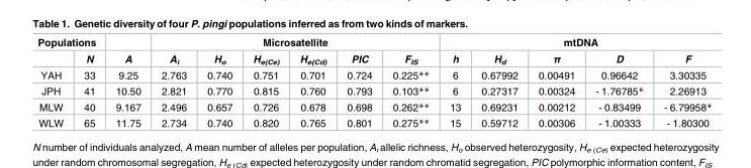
<table><thead><tr><td colspan="2">Populations</td><td rowspan="2">A</td><td colspan="6">Microsatellite</td><td colspan="5">mtDNA</td></tr><tr><td></td><td>N</td><td>A<sub>i</sub></td><td>H<sub>o</sub></td><td>H<sub>e(Ce)</sub></td><td>H<sub>e(Cd)</sub></td><td>PIC</td><td>F<sub>IS</sub></td><td>h</td><td>H<sub>d</sub></td><td>π</td><td>D</td><td>F</td></tr></thead><tbody><tr><td>YAH</td><td>33</td><td>9.25</td><td>2.763</td><td>0.740</td><td>0.751</td><td>0.701</td><td>0.724</td><td>0.225**</td><td>6</td><td>0.67992</td><td>0.00491</td><td>0.96642</td><td>3.30335</td></tr><tr><td>JPH</td><td>41</td><td>10.50</td><td>2.821</td><td>0.770</td><td>0.815</td><td>0.760</td><td>0.793</td><td>0.103**</td><td>6</td><td>0.27317</td><td>0.00324</td><td>- 1.76785*</td><td>2.26913</td></tr><tr><td>MLW</td><td>40</td><td>9.167</td><td>2.496</td><td>0.657</td><td>0.726</td><td>0.678</td><td>0.698</td><td>0.262**</td><td>13</td><td>0.69231</td><td>0.00212</td><td>- 0.83499</td><td>- 6.79958*</td></tr><tr><td>WLW</td><td>65</td><td>11.75</td><td>2.734</td><td>0.740</td><td>0.820</td><td>0.765</td><td>0.801</td><td>0.275**</td><td>15</td><td>0.59712</td><td>0.00306</td><td>- 1.00333</td><td>- 1.80300</td></tr></tbody></table>